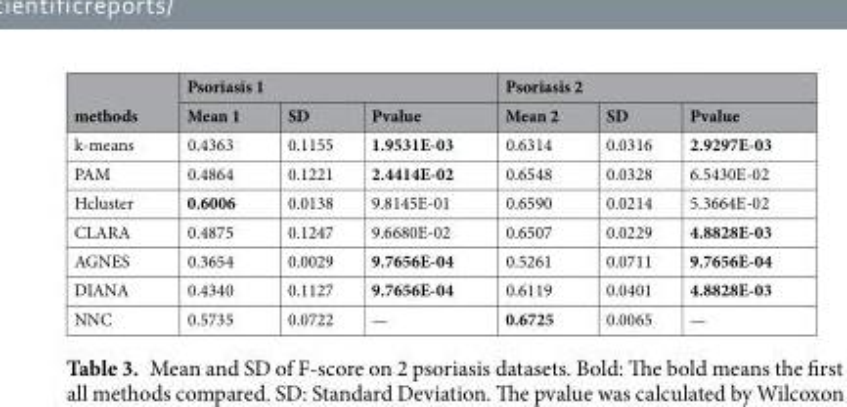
<table><thead><tr><td rowspan="2">methods</td><td colspan="3">Psoriasis 1</td><td colspan="3">Psoriasis 2</td></tr><tr><td>Mean 1</td><td>SD</td><td>Pvalue</td><td>Mean 2</td><td>SD</td><td>Pvalue</td></tr></thead><tbody><tr><td>k-means</td><td>0.4363</td><td>0.1155</td><td>1.9531E-03</td><td>0.6314</td><td>0.0316</td><td>2.9297E-03</td></tr><tr><td>PAM</td><td>0.4864</td><td>0.1221</td><td>2.4414E-02</td><td>0.6548</td><td>0.0328</td><td>6.5430E-02</td></tr><tr><td>Hcluster</td><td>0.6006</td><td>0.0138</td><td>9.8145E-01</td><td>0.6590</td><td>0.0214</td><td>5.3664E-02</td></tr><tr><td>CLARA</td><td>0.4875</td><td>0.1247</td><td>9.6680E-02</td><td>0.6507</td><td>0.0229</td><td>4.8828E-03</td></tr><tr><td>AGNES</td><td>0.3654</td><td>0.0029</td><td>9.7656E-04</td><td>0.5261</td><td>0.0711</td><td>9.7656E-04</td></tr><tr><td>DIANA</td><td>0.4340</td><td>0.1127</td><td>9.7656E-04</td><td>0.6119</td><td>0.0401</td><td>4.8828E-03</td></tr><tr><td>NNC</td><td>0.5735</td><td>0.0722</td><td>—</td><td>0.6725</td><td>0.0065</td><td>—</td></tr></tbody></table>